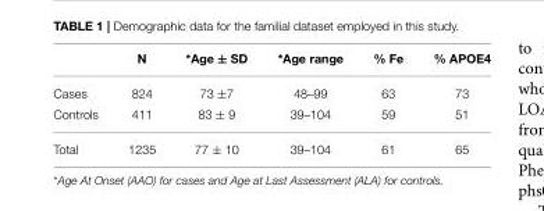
<table><thead><tr><td></td><td>N</td><td>*Age ± SD</td><td>*Age range</td><td>% Fe</td><td>% APOE4</td></tr></thead><tbody><tr><td>Cases</td><td>824</td><td>73 ±7</td><td>48–99</td><td>63</td><td>73</td></tr><tr><td>Controls</td><td>411</td><td>83 ± 9</td><td>39–104</td><td>59</td><td>51</td></tr><tr><td>Total</td><td>1235</td><td>77 ± 10</td><td>39–104</td><td>61</td><td>65</td></tr></tbody></table>